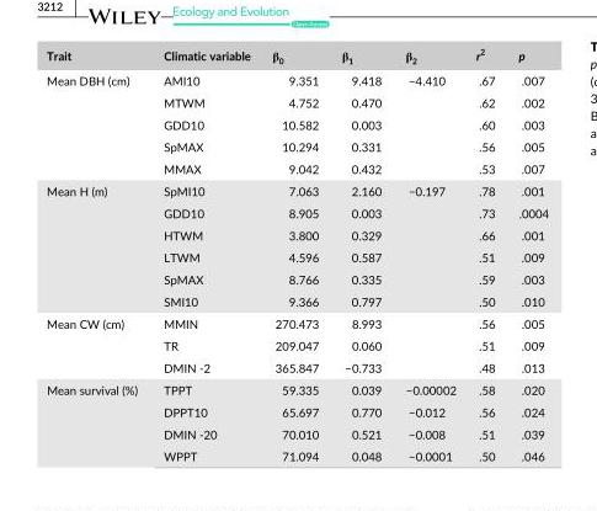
<table><thead><tr><td>Trait</td><td>Climatic variable</td><td>β<sub>0</sub></td><td>β<sub>1</sub></td><td>β<sub>2</sub></td><td>r<sup>2</sup></td><td>p</td></tr></thead><tbody><tr><td rowspan="5">Mean DBH (cm)</td><td>AMI10</td><td>9.351</td><td>9.418</td><td>−4.410</td><td>.67</td><td>.007</td></tr><tr><td>MTWM</td><td>4.752</td><td>0.470</td><td></td><td>.62</td><td>.002</td></tr><tr><td>GDD10</td><td>10.582</td><td>0.003</td><td></td><td>.60</td><td>.003</td></tr><tr><td>SpMAX</td><td>10.294</td><td>0.331</td><td></td><td>.56</td><td>.005</td></tr><tr><td>MMAX</td><td>9.042</td><td>0.432</td><td></td><td>.53</td><td>.007</td></tr><tr><td rowspan="6">Mean H (m)</td><td>SpMI10</td><td>7.063</td><td>2.160</td><td>−0.197</td><td>.78</td><td>.001</td></tr><tr><td>GDD10</td><td>8.905</td><td>0.003</td><td></td><td>.73</td><td>.0004</td></tr><tr><td>HTWM</td><td>3.800</td><td>0.329</td><td></td><td>.66</td><td>.001</td></tr><tr><td>LTWM</td><td>4.596</td><td>0.587</td><td></td><td>.51</td><td>.009</td></tr><tr><td>SpMAX</td><td>8.766</td><td>0.335</td><td></td><td>.59</td><td>.003</td></tr><tr><td>SMI10</td><td>9.366</td><td>0.797</td><td></td><td>.50</td><td>.010</td></tr><tr><td rowspan="3">Mean CW (cm)</td><td>MMIN</td><td>270.473</td><td>8.993</td><td></td><td>.56</td><td>.005</td></tr><tr><td>TR</td><td>209.047</td><td>0.060</td><td></td><td>.51</td><td>.009</td></tr><tr><td>DMIN - 2</td><td>365.847</td><td>−0.733</td><td></td><td>.48</td><td>.013</td></tr><tr><td rowspan="4">Mean survival (%)</td><td>TPPT</td><td>59.335</td><td>0.039</td><td>−0.00002</td><td>.58</td><td>.020</td></tr><tr><td>DPPT10</td><td>65.697</td><td>0.770</td><td>−0.012</td><td>.56</td><td>.024</td></tr><tr><td>DMIN - 20</td><td>70.010</td><td>0.521</td><td>−0.008</td><td>.51</td><td>.039</td></tr><tr><td>WPPT</td><td>71.094</td><td>0.048</td><td>−0.0001</td><td>.50</td><td>.046</td></tr></tbody></table>